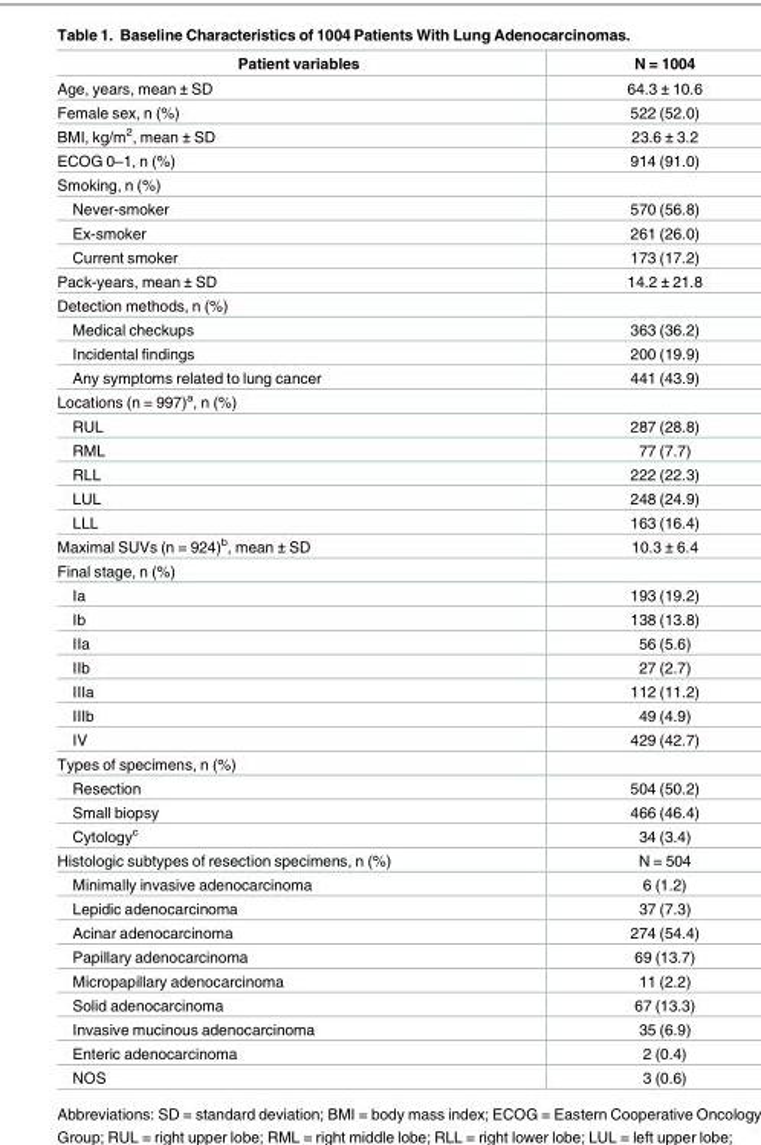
<table><thead><tr><td>Patient variables</td><td>N = 1004</td></tr></thead><tbody><tr><td>Age, years, mean ± SD</td><td>64.3 ± 10.6</td></tr><tr><td>Female sex, n (%)</td><td>522 (52.0)</td></tr><tr><td>BMI, kg/m<sup>2</sup>, mean ± SD</td><td>23.6 ± 3.2</td></tr><tr><td>ECOG 0–1, n (%)</td><td>914 (91.0)</td></tr><tr><td colspan="2">Smoking, n (%)</td></tr><tr><td>Never-smoker</td><td>570 (56.8)</td></tr><tr><td>Ex-smoker</td><td>261 (26.0)</td></tr><tr><td>Current smoker</td><td>173 (17.2)</td></tr><tr><td>Pack-years, mean ± SD</td><td>14.2 ± 21.8</td></tr><tr><td colspan="2">Detection methods, n (%)</td></tr><tr><td>Medical checkups</td><td>363 (36.2)</td></tr><tr><td>Incidental findings</td><td>200 (19.9)</td></tr><tr><td>Any symptoms related to lung cancer</td><td>441 (43.9)</td></tr><tr><td colspan="2">Locations (n = 997)<sup>a</sup>, n (%)</td></tr><tr><td>RUL</td><td>287 (28.8)</td></tr><tr><td>RML</td><td>77 (7.7)</td></tr><tr><td>RLL</td><td>222 (22.3)</td></tr><tr><td>LUL</td><td>248 (24.9)</td></tr><tr><td>LLL</td><td>163 (16.4)</td></tr><tr><td>Maximal SUVs (n = 924)<sup>b</sup>, mean ± SD</td><td>10.3 ± 6.4</td></tr><tr><td colspan="2">Final stage, n (%)</td></tr><tr><td>Ia</td><td>193 (19.2)</td></tr><tr><td>Ib</td><td>138 (13.8)</td></tr><tr><td>IIa</td><td>56 (5.6)</td></tr><tr><td>IIb</td><td>27 (2.7)</td></tr><tr><td>IIIa</td><td>112 (11.2)</td></tr><tr><td>IIIb</td><td>49 (4.9)</td></tr><tr><td>IV</td><td>429 (42.7)</td></tr><tr><td colspan="2">Types of specimens, n (%)</td></tr><tr><td>Resection</td><td>504 (50.2)</td></tr><tr><td>Small biopsy</td><td>466 (46.4)</td></tr><tr><td>Cytology<sup>c</sup></td><td>34 (3.4)</td></tr><tr><td>Histologic subtypes of resection specimens, n (%)</td><td>N = 504</td></tr><tr><td>Minimally invasive adenocarcinoma</td><td>6 (1.2)</td></tr><tr><td>Lepidic adenocarcinoma</td><td>37 (7.3)</td></tr><tr><td>Acinar adenocarcinoma</td><td>274 (54.4)</td></tr><tr><td>Papillary adenocarcinoma</td><td>69 (13.7)</td></tr><tr><td>Micropapillary adenocarcinoma</td><td>11 (2.2)</td></tr><tr><td>Solid adenocarcinoma</td><td>67 (13.3)</td></tr><tr><td>Invasive mucinous adenocarcinoma</td><td>35 (6.9)</td></tr><tr><td>Enteric adenocarcinoma</td><td>2 (0.4)</td></tr><tr><td>NOS</td><td>3 (0.6)</td></tr></tbody></table>